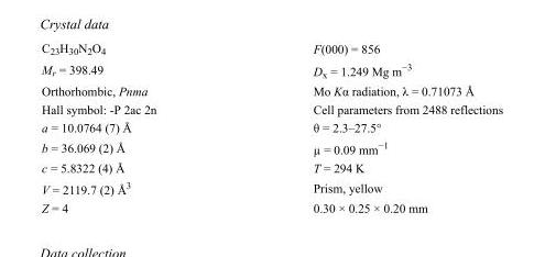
<table><tbody><tr><td>C<sub>23</sub>H<sub>30</sub>N<sub>2</sub>O<sub>4</sub></td><td>F(000) = 856</td></tr><tr><td>M<sub>r</sub> = 398.49</td><td>D<sub>x</sub> = 1.249 Mg m<sup>−3</sup></td></tr><tr><td>Orthorhombic, Pnma</td><td>Mo Kα radiation, λ = 0.71073 Å</td></tr><tr><td>Hall symbol: -P 2ac 2n</td><td>Cell parameters from 2488 reflections</td></tr><tr><td>a = 10.0764 (7) Å</td><td>θ = 2.3–27.5°</td></tr><tr><td>b = 36.069 (2) Å</td><td>µ = 0.09 mm<sup>−1</sup></td></tr><tr><td>c = 5.8322 (4) Å</td><td>T = 294 K</td></tr><tr><td>V = 2119.7 (2) Å<sup>3</sup></td><td>Prism, yellow</td></tr><tr><td>Z = 4</td><td>0.30 × 0.25 × 0.20 mm</td></tr></tbody></table>